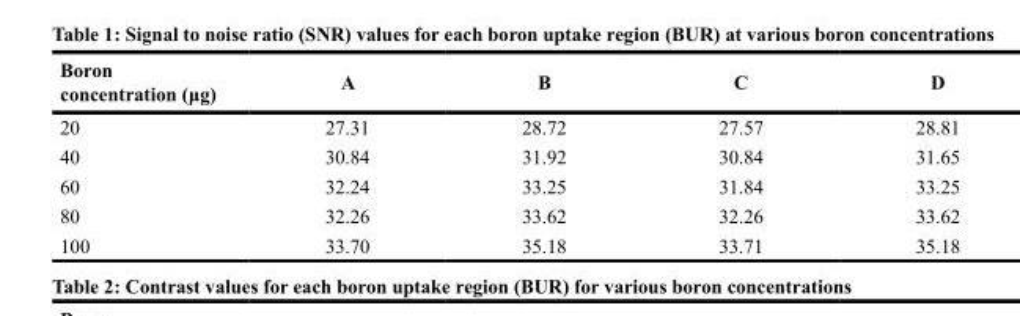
<table><thead><tr><td>Boron concentration (μg)</td><td>A</td><td>B</td><td>C</td><td>D</td></tr></thead><tbody><tr><td>20</td><td>27.31</td><td>28.72</td><td>27.57</td><td>28.81</td></tr><tr><td>40</td><td>30.84</td><td>31.92</td><td>30.84</td><td>31.65</td></tr><tr><td>60</td><td>32.24</td><td>33.25</td><td>31.84</td><td>33.25</td></tr><tr><td>80</td><td>32.26</td><td>33.62</td><td>32.26</td><td>33.62</td></tr><tr><td>100</td><td>33.70</td><td>35.18</td><td>33.71</td><td>35.18</td></tr></tbody></table>